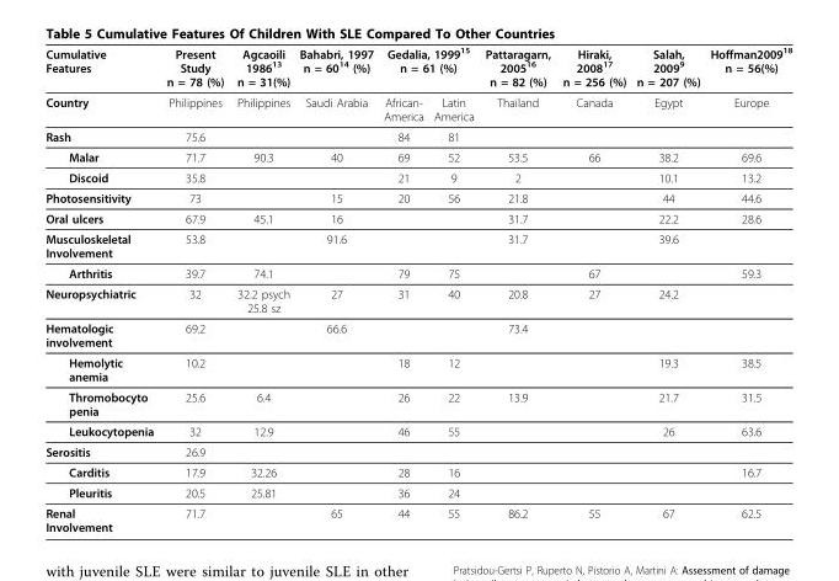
<table><thead><tr><td rowspan="2">Cumulative Features Country</td><td rowspan="2">Present Study n = 78 (%) Philippines</td><td rowspan="2">Agcaoili 198613 n = 31(%) Philippines</td><td rowspan="2">Bahabri, 1997 n = 6014 (%) Saudi Arabia</td><td colspan="2">Gedalia, 199915 n = 61 (%)</td><td rowspan="2">Pattaragarn, 200516 n = 82 (%) Thailand</td><td rowspan="2">Hiraki, 200817 n = 256 (%) Canada</td><td rowspan="2">Salah, 20099 n = 207 (%) Egypt</td><td rowspan="2">Hoffman200918 n = 56(%) Europe</td></tr><tr><td>African- America</td><td>Latin America</td></tr></thead><tbody><tr><td>Rash</td><td>75.6</td><td></td><td></td><td>84</td><td>81</td><td></td><td></td><td></td><td></td></tr><tr><td>Malar</td><td>71.7</td><td>90.3</td><td>40</td><td>69</td><td>52</td><td>53.5</td><td>66</td><td>38.2</td><td>69.6</td></tr><tr><td>Discoid</td><td>35.8</td><td></td><td></td><td>21</td><td>9</td><td>2</td><td></td><td>10.1</td><td>13.2</td></tr><tr><td>Photosensitivity</td><td>73</td><td></td><td>15</td><td>20</td><td>56</td><td>21.8</td><td></td><td>44</td><td>44.6</td></tr><tr><td>Oral ulcers</td><td>67.9</td><td>45.1</td><td>16</td><td></td><td></td><td>31.7</td><td></td><td>22.2</td><td>28.6</td></tr><tr><td>Musculoskeletal Involvement</td><td>53.8</td><td></td><td>91.6</td><td></td><td></td><td>31.7</td><td></td><td>39.6</td><td></td></tr><tr><td>Arthritis</td><td>39.7</td><td>74.1</td><td></td><td>79</td><td>75</td><td></td><td>67</td><td></td><td>59.3</td></tr><tr><td>Neuropsychiatric</td><td>32</td><td>32.2 psych 25.8 sz</td><td>27</td><td>31</td><td>40</td><td>20.8</td><td>27</td><td>24.2</td><td></td></tr><tr><td>Hematologic involvement</td><td>69.2</td><td></td><td>66.6</td><td></td><td></td><td>73.4</td><td></td><td></td><td></td></tr><tr><td>Hemolytic anemia</td><td>10.2</td><td></td><td></td><td>18</td><td>12</td><td></td><td></td><td>19.3</td><td>38.5</td></tr><tr><td>Thromobocyto penia</td><td>25.6</td><td>6.4</td><td></td><td>26</td><td>22</td><td>13.9</td><td></td><td>21.7</td><td>31.5</td></tr><tr><td>Leukocytopenia</td><td>32</td><td>12.9</td><td></td><td>46</td><td>55</td><td></td><td></td><td>26</td><td>63.6</td></tr><tr><td>Serositis</td><td>26.9</td><td></td><td></td><td></td><td></td><td></td><td></td><td></td><td></td></tr><tr><td>Carditis</td><td>17.9</td><td>32.26</td><td></td><td>28</td><td>16</td><td></td><td></td><td></td><td>16.7</td></tr><tr><td>Pleuritis</td><td>20.5</td><td>25.81</td><td></td><td>36</td><td>24</td><td></td><td></td><td></td><td></td></tr><tr><td>Renal Involvement</td><td>71.7</td><td></td><td>65</td><td>44</td><td>55</td><td>86.2</td><td>55</td><td>67</td><td>62.5</td></tr></tbody></table>